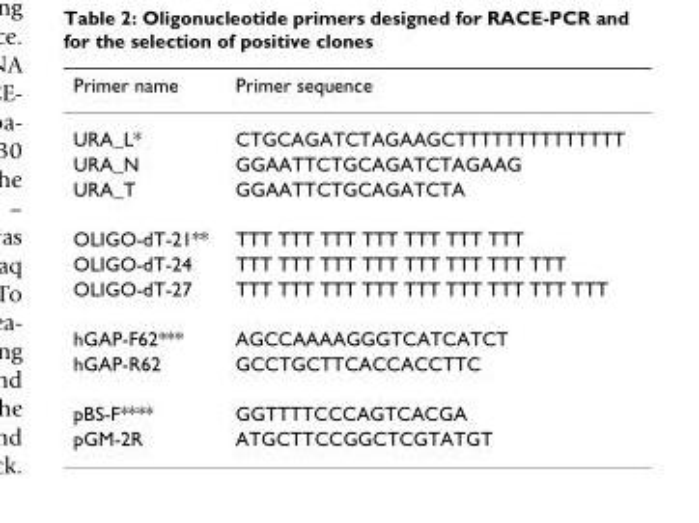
<table><thead><tr><td>Primer name</td><td>Primer sequence</td></tr></thead><tbody><tr><td>URA_L*</td><td>CTGCAGATCTAGAAGCTTTTTTTTTTTTTT</td></tr><tr><td>URA_N</td><td>GGAATTCTGCAGATCTAGAAG</td></tr><tr><td>URA_T</td><td>GGAATTCTGCAGATCTA</td></tr><tr><td>OLIGO-dT-21**</td><td>TTT TTT TTT TTT TTT TTT TTT</td></tr><tr><td>OLIGO-dT-24</td><td>TTT TTT TTT TTT TTT TTT TTT TTT</td></tr><tr><td>OLIGO-dT-27</td><td>TTT TTT TTT TTT TTT TTT TTT TTT TTT</td></tr><tr><td>hGAP-F62***</td><td>AGCCAAAAGGGTCATCATCT</td></tr><tr><td>hGAP-R62</td><td>GCCTGCTTCACCACCTTC</td></tr><tr><td>pBS-F****</td><td>GGTTTTCCCAGTCACGA</td></tr><tr><td>pGM-2R</td><td>ATGCTTCCGGCTCGTATGT</td></tr></tbody></table>